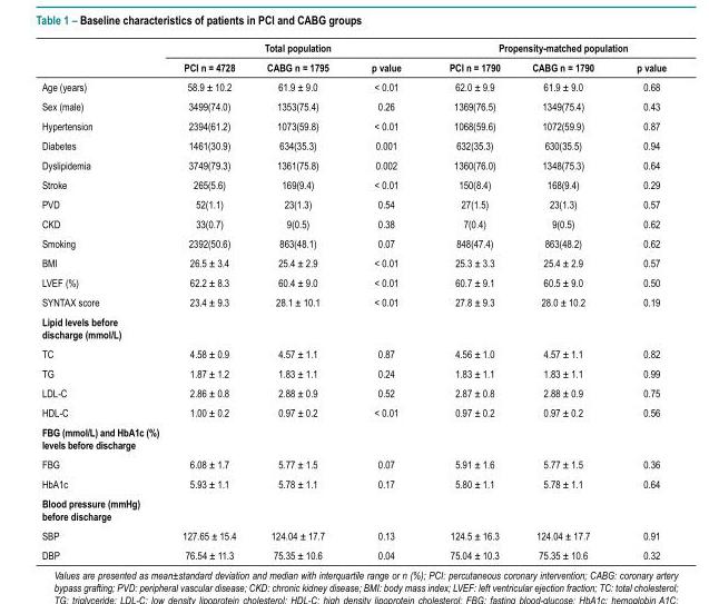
<table><thead><tr><td rowspan="2"></td><td colspan="3">Total population</td><td colspan="3">Propensity-matched population</td></tr><tr><td>PCI n = 4728</td><td>CABG n = 1795</td><td>p value</td><td>PCI n = 1790</td><td>CABG n = 1790</td><td>p value</td></tr></thead><tbody><tr><td>Age (years)</td><td>58.9 ± 10.2</td><td>61.9 ± 9.0</td><td>&lt; 0.01</td><td>62.0 ± 9.9</td><td>61.9 ± 9.0</td><td>0.68</td></tr><tr><td>Sex (male)</td><td>3499(74.0)</td><td>1353(75.4)</td><td>0.26</td><td>1369(76.5)</td><td>1349(75.4)</td><td>0.43</td></tr><tr><td>Hypertension</td><td>2394(61.2)</td><td>1073(59.8)</td><td>&lt; 0.01</td><td>1068(59.6)</td><td>1072(59.9)</td><td>0.87</td></tr><tr><td>Diabetes</td><td>1461(30.9)</td><td>634(35.3)</td><td>0.001</td><td>632(35.3)</td><td>630(35.5)</td><td>0.94</td></tr><tr><td>Dyslipidemia</td><td>3749(79.3)</td><td>1361(75.8)</td><td>0.002</td><td>1360(76.0)</td><td>1348(75.3)</td><td>0.64</td></tr><tr><td>Stroke</td><td>265(5.6)</td><td>169(9.4)</td><td>&lt; 0.01</td><td>150(8.4)</td><td>168(9.4)</td><td>0.29</td></tr><tr><td>PVD</td><td>52(1.1)</td><td>23(1.3)</td><td>0.54</td><td>27(1.5)</td><td>23(1.3)</td><td>0.57</td></tr><tr><td>CKD</td><td>33(0.7)</td><td>9(0.5)</td><td>0.38</td><td>7(0.4)</td><td>9(0.5)</td><td>0.62</td></tr><tr><td>Smoking</td><td>2392(50.6)</td><td>863(48.1)</td><td>0.07</td><td>848(47.4)</td><td>863(48.2)</td><td>0.62</td></tr><tr><td>BMI</td><td>26.5 ± 3.4</td><td>25.4 ± 2.9</td><td>&lt; 0.01</td><td>25.3 ± 3.3</td><td>25.4 ± 2.9</td><td>0.57</td></tr><tr><td>LVEF (%)</td><td>62.2 ± 8.3</td><td>60.4 ± 9.0</td><td>&lt; 0.01</td><td>60.7 ± 9.1</td><td>60.5 ± 9.0</td><td>0.50</td></tr><tr><td>SYNTAX score</td><td>23.4 ± 9.3</td><td>28.1 ± 10.1</td><td>&lt; 0.01</td><td>27.8 ± 9.3</td><td>28.0 ± 10.2</td><td>0.19</td></tr><tr><td colspan="7">Lipid levels before discharge (mmol/L)</td></tr><tr><td>TC</td><td>4.58 ± 0.9</td><td>4.57 ± 1.1</td><td>0.87</td><td>4.56 ± 1.0</td><td>4.57 ± 1.1</td><td>0.82</td></tr><tr><td>TG</td><td>1.87 ± 1.2</td><td>1.83 ± 1.1</td><td>0.24</td><td>1.83 ± 1.1</td><td>1.83 ± 1.1</td><td>0.99</td></tr><tr><td>LDL-C</td><td>2.86 ± 0.8</td><td>2.88 ± 0.9</td><td>0.52</td><td>2.87 ± 0.8</td><td>2.88 ± 0.9</td><td>0.75</td></tr><tr><td>HDL-C</td><td>1.00 ± 0.2</td><td>0.97 ± 0.2</td><td>&lt; 0.01</td><td>0.97 ± 0.2</td><td>0.97 ± 0.2</td><td>0.56</td></tr><tr><td colspan="7">FBG (mmol/L) and HbA1c (%) levels before discharge</td></tr><tr><td>FBG</td><td>6.08 ± 1.7</td><td>5.77 ± 1.5</td><td>0.07</td><td>5.91 ± 1.6</td><td>5.77 ± 1.5</td><td>0.36</td></tr><tr><td>HbA1c</td><td>5.93 ± 1.1</td><td>5.78 ± 1.1</td><td>0.17</td><td>5.80 ± 1.1</td><td>5.78 ± 1.1</td><td>0.64</td></tr><tr><td colspan="7">Blood pressure (mmHg) before discharge</td></tr><tr><td>SBP</td><td>127.65 ± 15.4</td><td>124.04 ± 17.7</td><td>0.13</td><td>124.5 ± 16.3</td><td>124.04 ± 17.7</td><td>0.91</td></tr><tr><td>DBP</td><td>76.54 ± 11.3</td><td>75.35 ± 10.6</td><td>0.04</td><td>75.04 ± 10.3</td><td>75.35 ± 10.6</td><td>0.32</td></tr></tbody></table>